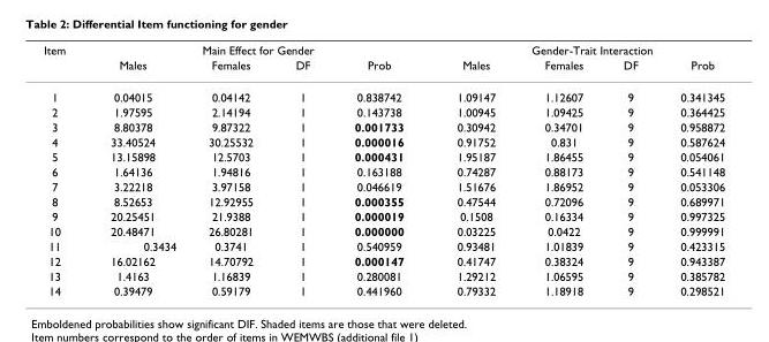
<table><thead><tr><td rowspan="2">Item</td><td colspan="4">Main Effect for Gender</td><td colspan="4">Gender-Trait Interaction</td></tr><tr><td>Males</td><td>Females</td><td>DF</td><td>Prob</td><td>Males</td><td>Females</td><td>DF</td><td>Prob</td></tr></thead><tbody><tr><td>1</td><td>0.04015</td><td>0.04142</td><td>1</td><td>0.838742</td><td>1.09147</td><td>1.12607</td><td>9</td><td>0.341345</td></tr><tr><td>2</td><td>1.97595</td><td>2.14194</td><td>1</td><td>0.143738</td><td>1.00945</td><td>1.09425</td><td>9</td><td>0.364425</td></tr><tr><td>3</td><td>8.80378</td><td>9.87322</td><td>1</td><td>0.001733</td><td>0.30942</td><td>0.34701</td><td>9</td><td>0.958872</td></tr><tr><td>4</td><td>33.40524</td><td>30.25532</td><td>1</td><td>0.000016</td><td>0.91752</td><td>0.831</td><td>9</td><td>0.587624</td></tr><tr><td>5</td><td>13.15898</td><td>12.5703</td><td>1</td><td>0.000431</td><td>1.95187</td><td>1.86455</td><td>9</td><td>0.054061</td></tr><tr><td>6</td><td>1.64136</td><td>1.94816</td><td>1</td><td>0.163188</td><td>0.74287</td><td>0.88173</td><td>9</td><td>0.541148</td></tr><tr><td>7</td><td>3.22218</td><td>3.97158</td><td>1</td><td>0.046619</td><td>1.51676</td><td>1.86952</td><td>9</td><td>0.053306</td></tr><tr><td>8</td><td>8.52653</td><td>12.92955</td><td>1</td><td>0.000355</td><td>0.47544</td><td>0.72096</td><td>9</td><td>0.689971</td></tr><tr><td>9</td><td>20.25451</td><td>21.9388</td><td>1</td><td>0.000019</td><td>0.1508</td><td>0.16334</td><td>9</td><td>0.997325</td></tr><tr><td>10</td><td>20.48471</td><td>26.80281</td><td>1</td><td>0.000000</td><td>0.03225</td><td>0.0422</td><td>9</td><td>0.999991</td></tr><tr><td>11</td><td>0.3434</td><td>0.3741</td><td>1</td><td>0.540959</td><td>0.93481</td><td>1.01839</td><td>9</td><td>0.423315</td></tr><tr><td>12</td><td>16.02162</td><td>14.70792</td><td>1</td><td>0.000147</td><td>0.41747</td><td>0.38324</td><td>9</td><td>0.943387</td></tr><tr><td>13</td><td>1.4163</td><td>1.16839</td><td>1</td><td>0.280081</td><td>1.29212</td><td>1.06595</td><td>9</td><td>0.385782</td></tr><tr><td>14</td><td>0.39479</td><td>0.59179</td><td>1</td><td>0.441960</td><td>0.79332</td><td>1.18918</td><td>9</td><td>0.298521</td></tr></tbody></table>